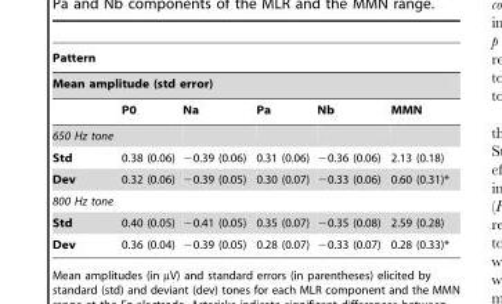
<table><thead><tr><td rowspan="2" colspan="6">Pattern Mean amplitude (std error)</td></tr><tr></tr><tr><td></td><td>P0</td><td>Na</td><td>Pa</td><td>Nb</td><td>MMN</td></tr></thead><tbody><tr><td colspan="6">650 Hz tone</td></tr><tr><td>Std</td><td>0.38 (0.06)</td><td>−0.39 (0.06)</td><td>0.31 (0.06)</td><td>−0.36 (0.06)</td><td>2.13 (0.18)</td></tr><tr><td>Dev</td><td>0.32 (0.06)</td><td>−0.39 (0.05)</td><td>0.30 (0.07)</td><td>−0.33 (0.06)</td><td>0.60 (0.31)*</td></tr><tr><td colspan="6">800 Hz tone</td></tr><tr><td>Std</td><td>0.40 (0.05)</td><td>−0.41 (0.05)</td><td>0.35 (0.07)</td><td>−0.35 (0.08)</td><td>2.59 (0.28)</td></tr><tr><td>Dev</td><td>0.36 (0.04)</td><td>−0.39 (0.05)</td><td>0.28 (0.07)</td><td>−0.33 (0.07)</td><td>0.28 (0.33)*</td></tr></tbody></table>